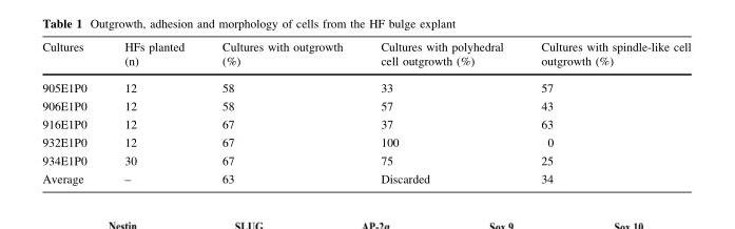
<table><thead><tr><td>Cultures</td><td>HFs planted (n)</td><td>Cultures with outgrowth (%)</td><td>Cultures with polyhedral cell outgrowth (%)</td><td>Cultures with spindle-like cell outgrowth (%)</td></tr></thead><tbody><tr><td>905E1P0</td><td>12</td><td>58</td><td>33</td><td>57</td></tr><tr><td>906E1P0</td><td>12</td><td>58</td><td>57</td><td>43</td></tr><tr><td>916E1P0</td><td>12</td><td>67</td><td>37</td><td>63</td></tr><tr><td>932E1P0</td><td>12</td><td>67</td><td>100</td><td>0</td></tr><tr><td>934E1P0</td><td>30</td><td>67</td><td>75</td><td>25</td></tr><tr><td>Average</td><td>–</td><td>63</td><td>Discarded</td><td>34</td></tr></tbody></table>